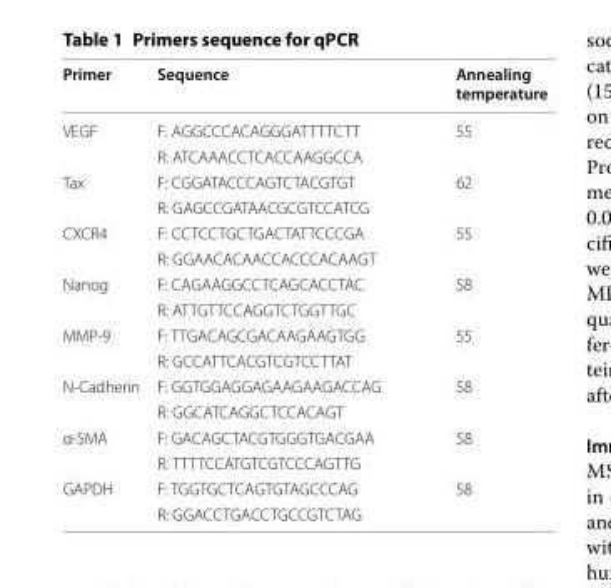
<table><thead><tr><td>Primer</td><td>Sequence</td><td>Annealing temperature</td></tr></thead><tbody><tr><td rowspan="2">VEGF</td><td>F: AGGCCCACAGGGATTTTCTT</td><td>55</td></tr><tr><td>R: ATCAAACCTCACCAAGGCCA</td><td></td></tr><tr><td rowspan="2">Tax</td><td>F: CGGATACCCAGTCTACGTGT</td><td>62</td></tr><tr><td>R: GAGCCGATAACGCGTCCATCG</td><td></td></tr><tr><td rowspan="2">CXCR4</td><td>F: CCTCCTGCTGACTATTCCCGA</td><td>55</td></tr><tr><td>R: GGAACACAACCACCCACAAGT</td><td></td></tr><tr><td rowspan="2">Nanog</td><td>F: CAGAAGGCCTCAGCACCTAC</td><td>58</td></tr><tr><td>R: ATTGTTCCAGGTCTGGTTGC</td><td></td></tr><tr><td rowspan="2">MMP‑9</td><td>F: TTGACAGCGACAAGAAGTGG</td><td>55</td></tr><tr><td>R: GCCATTCACGTCGTCCTTAT</td><td></td></tr><tr><td rowspan="2">N‑Cadherin</td><td>F: GGTGGAGGAGAAGAAGACCAG</td><td>58</td></tr><tr><td>R: GGCATCAGGCTCCACAGT</td><td></td></tr><tr><td rowspan="2">α‑SMA</td><td>F: GACAGCTACGTGGGTGACGAA</td><td>58</td></tr><tr><td>R: TTTTCCATGTCGTCCCAGTTG</td><td></td></tr><tr><td rowspan="2">GAPDH</td><td>F: TGGTGCTCAGTGTAGCCCAG</td><td>58</td></tr><tr><td>R: GGACCTGACCTGCCGTCTAG</td><td></td></tr></tbody></table>